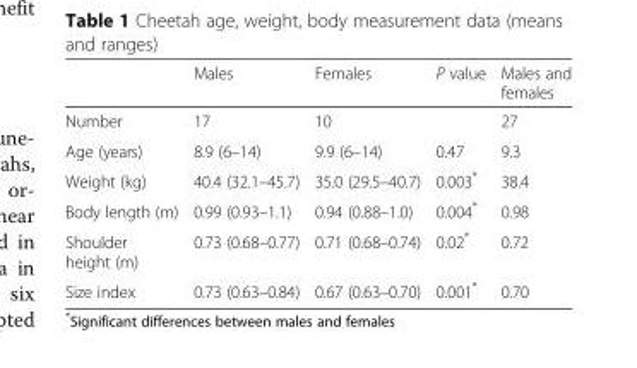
<table><thead><tr><td></td><td>Males</td><td>Females</td><td>P value</td><td>Males and females</td></tr></thead><tbody><tr><td>Number</td><td>17</td><td>10</td><td></td><td>27</td></tr><tr><td>Age (years)</td><td>8.9 (6–14)</td><td>9.9 (6–14)</td><td>0.47</td><td>9.3</td></tr><tr><td>Weight (kg)</td><td>40.4 (32.1–45.7)</td><td>35.0 (29.5–40.7)</td><td>0.003*</td><td>38.4</td></tr><tr><td>Body length (m)</td><td>0.99 (0.93–1.1)</td><td>0.94 (0.88–1.0)</td><td>0.004*</td><td>0.98</td></tr><tr><td>Shoulder height (m)</td><td>0.73 (0.68–0.77)</td><td>0.71 (0.68–0.74)</td><td>0.02*</td><td>0.72</td></tr><tr><td>Size index</td><td>0.73 (0.63–0.84)</td><td>0.67 (0.63–0.70)</td><td>0.001*</td><td>0.70</td></tr></tbody></table>